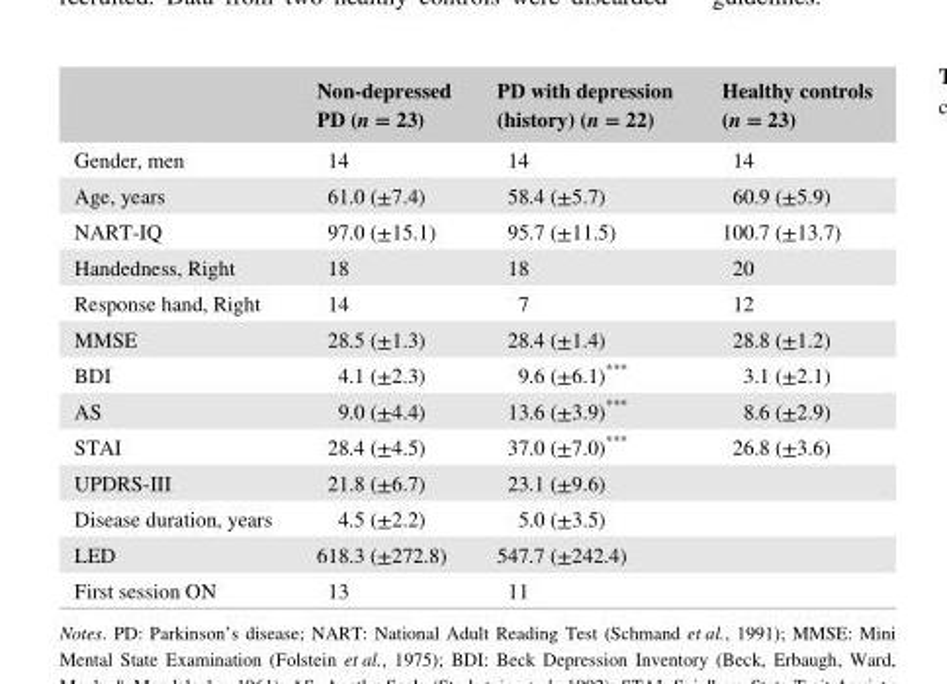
<table><thead><tr><td></td><td>Non- depressed PD (n = 23)</td><td>PD with depression (history) (n = 22)</td><td>Healthy controls (n = 23)</td></tr></thead><tbody><tr><td>Gender, men</td><td>14</td><td>14</td><td>14</td></tr><tr><td>Age, years</td><td>61.0 (±7.4)</td><td>58.4 (±5.7)</td><td>60.9 (±5.9)</td></tr><tr><td>NART- IQ</td><td>97.0 (±15.1)</td><td>95.7 (±11.5)</td><td>100.7 (±13.7)</td></tr><tr><td>Handedness, Right</td><td>18</td><td>18</td><td>20</td></tr><tr><td>Response hand, Right</td><td>14</td><td>7</td><td>12</td></tr><tr><td>MMSE</td><td>28.5 (±1.3)</td><td>28.4 (±1.4)</td><td>28.8 (±1.2)</td></tr><tr><td>BDI</td><td>4.1 (±2.3)</td><td>9.6 (±6.1)***</td><td>3.1 (±2.1)</td></tr><tr><td>AS</td><td>9.0 (±4.4)</td><td>13.6 (±3.9)***</td><td>8.6 (±2.9)</td></tr><tr><td>STAI</td><td>28.4 (±4.5)</td><td>37.0 (±7.0)***</td><td>26.8 (±3.6)</td></tr><tr><td>UPDRS- III</td><td>21.8 (±6.7)</td><td>23.1 (±9.6)</td><td></td></tr><tr><td>Disease duration, years</td><td>4.5 (±2.2)</td><td>5.0 (±3.5)</td><td></td></tr><tr><td>LED</td><td>618.3 (±272.8)</td><td>547.7 (±242.4)</td><td></td></tr><tr><td>First session ON</td><td>13</td><td>11</td><td></td></tr></tbody></table>